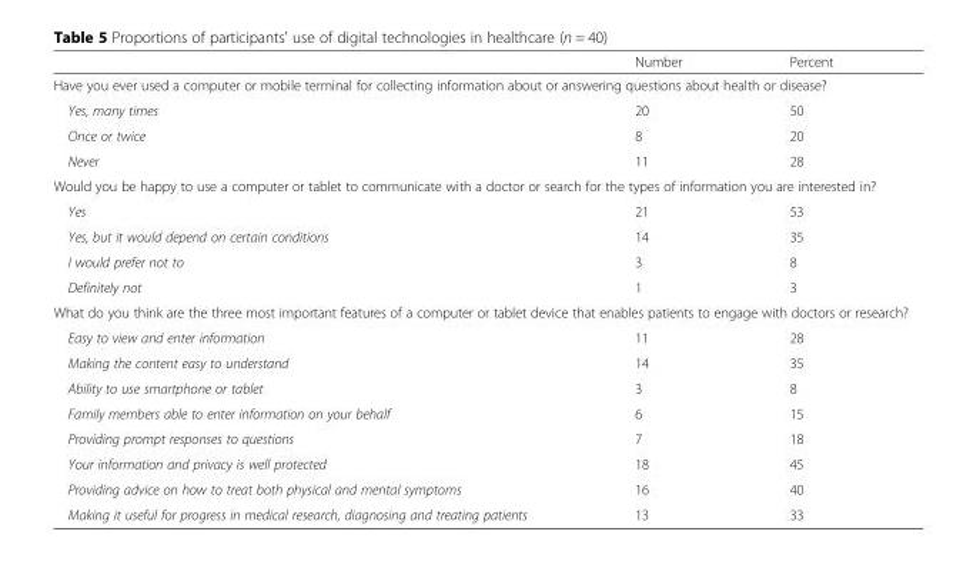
<table><thead><tr><td></td><td>Number</td><td>Percent</td></tr></thead><tbody><tr><td colspan="3">Have you ever used a computer or mobile terminal for collecting information about or answering questions about health or disease?</td></tr><tr><td>Yes, many times</td><td>20</td><td>50</td></tr><tr><td>Once or twice</td><td>8</td><td>20</td></tr><tr><td>Never</td><td>11</td><td>28</td></tr><tr><td colspan="3">Would you be happy to use a computer or tablet to communicate with a doctor or search for the types of information you are interested in?</td></tr><tr><td>Yes</td><td>21</td><td>53</td></tr><tr><td>Yes, but it would depend on certain conditions</td><td>14</td><td>35</td></tr><tr><td>I would prefer not to</td><td>3</td><td>8</td></tr><tr><td>Definitely not</td><td>1</td><td>3</td></tr><tr><td colspan="3">What do you think are the three most important features of a computer or tablet device that enables patients to engage with doctors or research?</td></tr><tr><td>Easy to view and enter information</td><td>11</td><td>28</td></tr><tr><td>Making the content easy to understand</td><td>14</td><td>35</td></tr><tr><td>Ability to use smartphone or tablet</td><td>3</td><td>8</td></tr><tr><td>Family members able to enter information on your behalf</td><td>6</td><td>15</td></tr><tr><td>Providing prompt responses to questions</td><td>7</td><td>18</td></tr><tr><td>Your information and privacy is well protected</td><td>18</td><td>45</td></tr><tr><td>Providing advice on how to treat both physical and mental symptoms</td><td>16</td><td>40</td></tr><tr><td>Making it useful for progress in medical research, diagnosing and treating patients</td><td>13</td><td>33</td></tr></tbody></table>